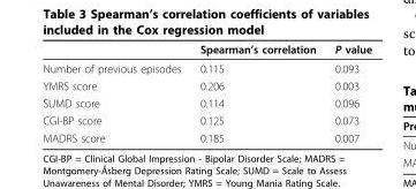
<table><thead><tr><td></td><td>Spearman’s correlation</td><td>P value</td></tr></thead><tbody><tr><td>Number of previous episodes</td><td>0.115</td><td>0.093</td></tr><tr><td>YMRS score</td><td>0.206</td><td>0.003</td></tr><tr><td>SUMD score</td><td>0.114</td><td>0.096</td></tr><tr><td>CGI-BP score</td><td>0.125</td><td>0.073</td></tr><tr><td>MADRS score</td><td>0.185</td><td>0.007</td></tr></tbody></table>